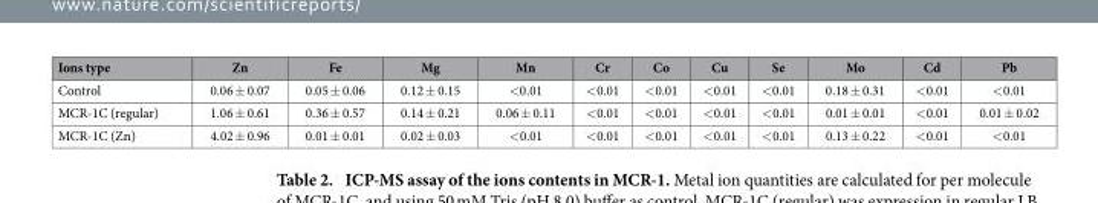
<table><thead><tr><td>Ions type</td><td>Zn</td><td>Fe</td><td>Mg</td><td>Mn</td><td>Cr</td><td>Co</td><td>Cu</td><td>Se</td><td>Mo</td><td>Cd</td><td>Pb</td></tr></thead><tbody><tr><td>Control</td><td>0.06 ± 0.07</td><td>0.05 ± 0.06</td><td>0.12 ± 0.15</td><td>&lt; 0.01</td><td>&lt; 0.01</td><td>&lt; 0.01</td><td>&lt; 0.01</td><td>&lt; 0.01</td><td>0.18 ± 0.31</td><td>&lt; 0.01</td><td>&lt; 0.01</td></tr><tr><td>MCR-1C (regular)</td><td>1.06 ± 0.61</td><td>0.36 ± 0.57</td><td>0.14 ± 0.21</td><td>0.06 ± 0.11</td><td>&lt; 0.01</td><td>&lt; 0.01</td><td>&lt; 0.01</td><td>&lt; 0.01</td><td>0.01 ± 0.01</td><td>&lt; 0.01</td><td>0.01 ± 0.02</td></tr><tr><td>MCR-1C (Zn)</td><td>4.02 ± 0.96</td><td>0.01 ± 0.01</td><td>0.02 ± 0.03</td><td>&lt; 0.01</td><td>&lt; 0.01</td><td>&lt; 0.01</td><td>&lt; 0.01</td><td>&lt; 0.01</td><td>0.13 ± 0.22</td><td>&lt; 0.01</td><td>&lt; 0.01</td></tr></tbody></table>